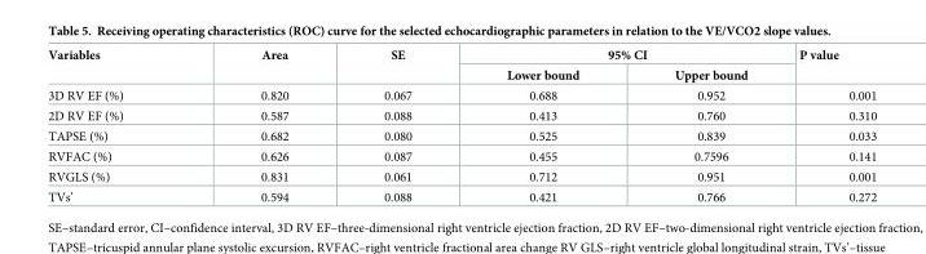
<table><thead><tr><td rowspan="2">Variables</td><td rowspan="2">Area</td><td rowspan="2">SE</td><td colspan="2">95% CI</td><td rowspan="2">P value</td></tr><tr><td>Lower bound</td><td>Upper bound</td></tr></thead><tbody><tr><td>3D RV EF (%)</td><td>0.820</td><td>0.067</td><td>0.688</td><td>0.952</td><td>0.001</td></tr><tr><td>2D RV EF (%)</td><td>0.587</td><td>0.088</td><td>0.413</td><td>0.760</td><td>0.310</td></tr><tr><td>TAPSE (%)</td><td>0.682</td><td>0.080</td><td>0.525</td><td>0.839</td><td>0.033</td></tr><tr><td>RVFAC (%)</td><td>0.626</td><td>0.087</td><td>0.455</td><td>0.7596</td><td>0.141</td></tr><tr><td>RVGLS (%)</td><td>0.831</td><td>0.061</td><td>0.712</td><td>0.951</td><td>0.001</td></tr><tr><td>TVs’</td><td>0.594</td><td>0.088</td><td>0.421</td><td>0.766</td><td>0.272</td></tr></tbody></table>